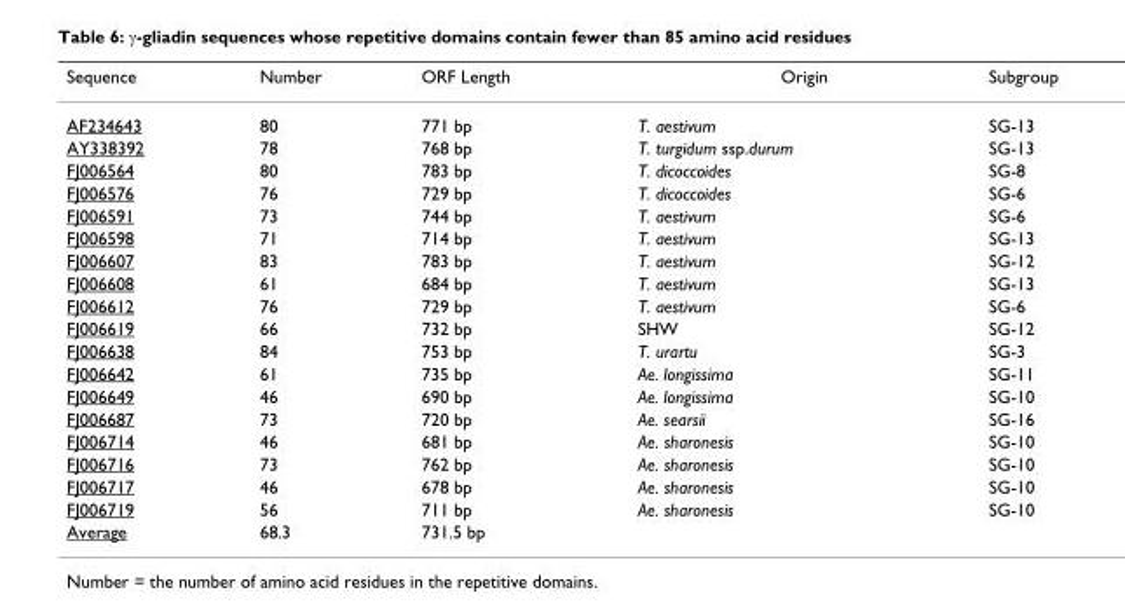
<table><thead><tr><td>Sequence</td><td>Number</td><td>ORF Length</td><td>Origin</td><td>Subgroup</td></tr></thead><tbody><tr><td>AF234643</td><td>80</td><td>771 bp</td><td>T. aestivum</td><td>SG-13</td></tr><tr><td>AY338392</td><td>78</td><td>768 bp</td><td>T. turgidum ssp.durum</td><td>SG-13</td></tr><tr><td>FJ006564</td><td>80</td><td>783 bp</td><td>T. dicoccoides</td><td>SG-8</td></tr><tr><td>FJ006576</td><td>76</td><td>729 bp</td><td>T. dicoccoides</td><td>SG-6</td></tr><tr><td>FJ006591</td><td>73</td><td>744 bp</td><td>T. aestivum</td><td>SG-6</td></tr><tr><td>FJ006598</td><td>71</td><td>714 bp</td><td>T. aestivum</td><td>SG-13</td></tr><tr><td>FJ006607</td><td>83</td><td>783 bp</td><td>T. aestivum</td><td>SG-12</td></tr><tr><td>FJ006608</td><td>61</td><td>684 bp</td><td>T. aestivum</td><td>SG-13</td></tr><tr><td>FJ006612</td><td>76</td><td>729 bp</td><td>T. aestivum</td><td>SG-6</td></tr><tr><td>FJ006619</td><td>66</td><td>732 bp</td><td>SHW</td><td>SG-12</td></tr><tr><td>FJ006638</td><td>84</td><td>753 bp</td><td>T. urartu</td><td>SG-3</td></tr><tr><td>FJ006642</td><td>61</td><td>735 bp</td><td>Ae. longissima</td><td>SG-11</td></tr><tr><td>FJ006649</td><td>46</td><td>690 bp</td><td>Ae. longissima</td><td>SG-10</td></tr><tr><td>FJ006687</td><td>73</td><td>720 bp</td><td>Ae. searsii</td><td>SG-16</td></tr><tr><td>FJ006714</td><td>46</td><td>681 bp</td><td>Ae. sharonesis</td><td>SG-10</td></tr><tr><td>FJ006716</td><td>73</td><td>762 bp</td><td>Ae. sharonesis</td><td>SG-10</td></tr><tr><td>FJ006717</td><td>46</td><td>678 bp</td><td>Ae. sharonesis</td><td>SG-10</td></tr><tr><td>FJ006719</td><td>56</td><td>711 bp</td><td>Ae. sharonesis</td><td>SG-10</td></tr><tr><td>Average</td><td>68.3</td><td>731.5 bp</td><td></td><td></td></tr></tbody></table>